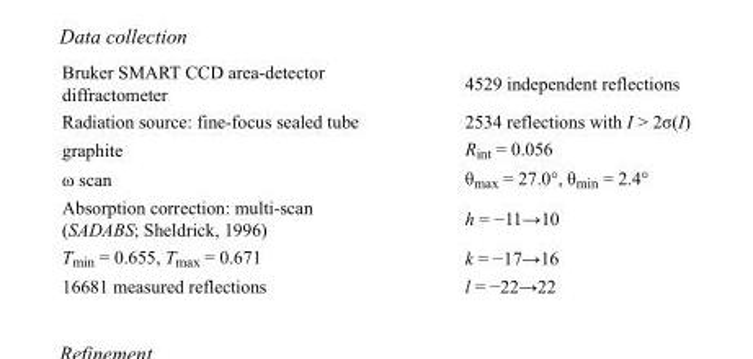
<table><tbody><tr><td>Bruker SMART CCD area-detector diffractometer</td><td>4529 independent reflections</td></tr><tr><td>Radiation source: fine-focus sealed tube</td><td>2534 reflections with I &gt; 2σ(I)</td></tr><tr><td>graphite</td><td>R<sub>int</sub> = 0.056</td></tr><tr><td>ω scan</td><td>θ<sub>max</sub> = 27.0°, θ<sub>min</sub> = 2.4°</td></tr><tr><td>Absorption correction: multi-scan (SADABS; Sheldrick, 1996)</td><td>h = −11→10</td></tr><tr><td>T<sub>min</sub> = 0.655, T<sub>max</sub> = 0.671</td><td>k = −17→16</td></tr><tr><td>16681 measured reflections</td><td>l = −22→22</td></tr></tbody></table>